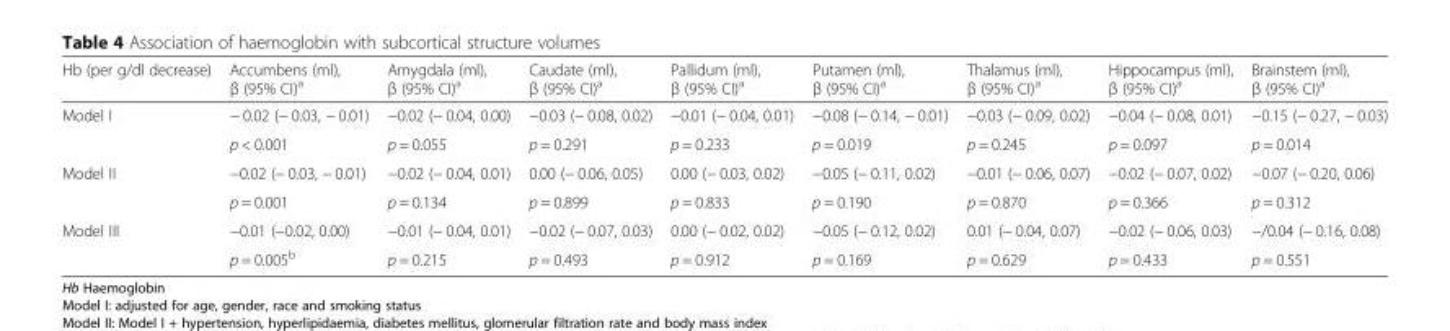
<table><thead><tr><td>Hb (per g/dl decrease)</td><td>Accumbens (ml), β (95% CI)<sup>a</sup></td><td>Amygdala (ml), β (95% CI)<sup>a</sup></td><td>Caudate (ml), β (95% CI)<sup>a</sup></td><td>Pallidum (ml), β (95% CI)<sup>a</sup></td><td>Putamen (ml), β (95% CI)<sup>a</sup></td><td>Thalamus (ml), β (95% CI)<sup>a</sup></td><td>Hippocampus (ml), β (95% CI)<sup>a</sup></td><td>Brainstem (ml), β (95% CI)<sup>a</sup></td></tr></thead><tbody><tr><td rowspan="2">Model I</td><td>− 0.02 (− 0.03, − 0.01)</td><td>−0.02 (− 0.04, 0.00)</td><td>−0.03 (− 0.08, 0.02)</td><td>−0.01 (− 0.04, 0.01)</td><td>−0.08 (− 0.14, − 0.01)</td><td>−0.03 (− 0.09, 0.02)</td><td>−0.04 (− 0.08, 0.01)</td><td>−0.15 (− 0.27, − 0.03)</td></tr><tr><td>p &lt; 0.001</td><td>p = 0.055</td><td>p = 0.291</td><td>p = 0.233</td><td>p = 0.019</td><td>p = 0.245</td><td>p = 0.097</td><td>p = 0.014</td></tr><tr><td rowspan="2">Model II</td><td>−0.02 (− 0.03, − 0.01)</td><td>−0.02 (− 0.04, 0.01)</td><td>0.00 (− 0.06, 0.05)</td><td>0.00 (− 0.03, 0.02)</td><td>−0.05 (− 0.11, 0.02)</td><td>−0.01 (− 0.06, 0.07)</td><td>−0.02 (− 0.07, 0.02)</td><td>−0.07 (− 0.20, 0.06)</td></tr><tr><td>p = 0.001</td><td>p = 0.134</td><td>p = 0.899</td><td>p = 0.833</td><td>p = 0.190</td><td>p = 0.870</td><td>p = 0.366</td><td>p = 0.312</td></tr><tr><td rowspan="2">Model III</td><td>−0.01 (−0.02, 0.00)</td><td>−0.01 (− 0.04, 0.01)</td><td>−0.02 (− 0.07, 0.03)</td><td>0.00 (− 0.02, 0.02)</td><td>−0.05 (− 0.12, 0.02)</td><td>0.01 (− 0.04, 0.07)</td><td>−0.02 (− 0.06, 0.03)</td><td>−/0.04 (− 0.16, 0.08)</td></tr><tr><td>p = 0.005<sup>b</sup></td><td>p = 0.215</td><td>p = 0.493</td><td>p = 0.912</td><td>p = 0.169</td><td>p = 0.629</td><td>p = 0.433</td><td>p = 0.551</td></tr></tbody></table>